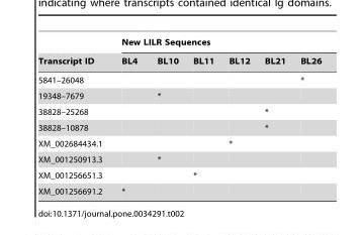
<table><thead><tr><td rowspan="2">Transcript ID</td><td colspan="6">New LILR Sequences</td></tr><tr><td>BL4</td><td>BL10</td><td>BL11</td><td>BL12</td><td>BL21</td><td>BL26</td></tr></thead><tbody><tr><td>5841–26048</td><td></td><td></td><td></td><td></td><td></td><td>*</td></tr><tr><td>19348–7679</td><td></td><td>*</td><td></td><td></td><td></td><td></td></tr><tr><td>38828–25268</td><td></td><td></td><td></td><td></td><td>*</td><td></td></tr><tr><td>38828–10878</td><td></td><td></td><td></td><td></td><td>*</td><td></td></tr><tr><td>XM_002684434.1</td><td></td><td></td><td></td><td>*</td><td></td><td></td></tr><tr><td>XM_001250913.3</td><td></td><td>*</td><td></td><td></td><td></td><td></td></tr><tr><td>XM_001256651.3</td><td></td><td></td><td>*</td><td></td><td></td><td></td></tr><tr><td>XM_001256691.2</td><td>*</td><td></td><td></td><td></td><td></td><td></td></tr></tbody></table>